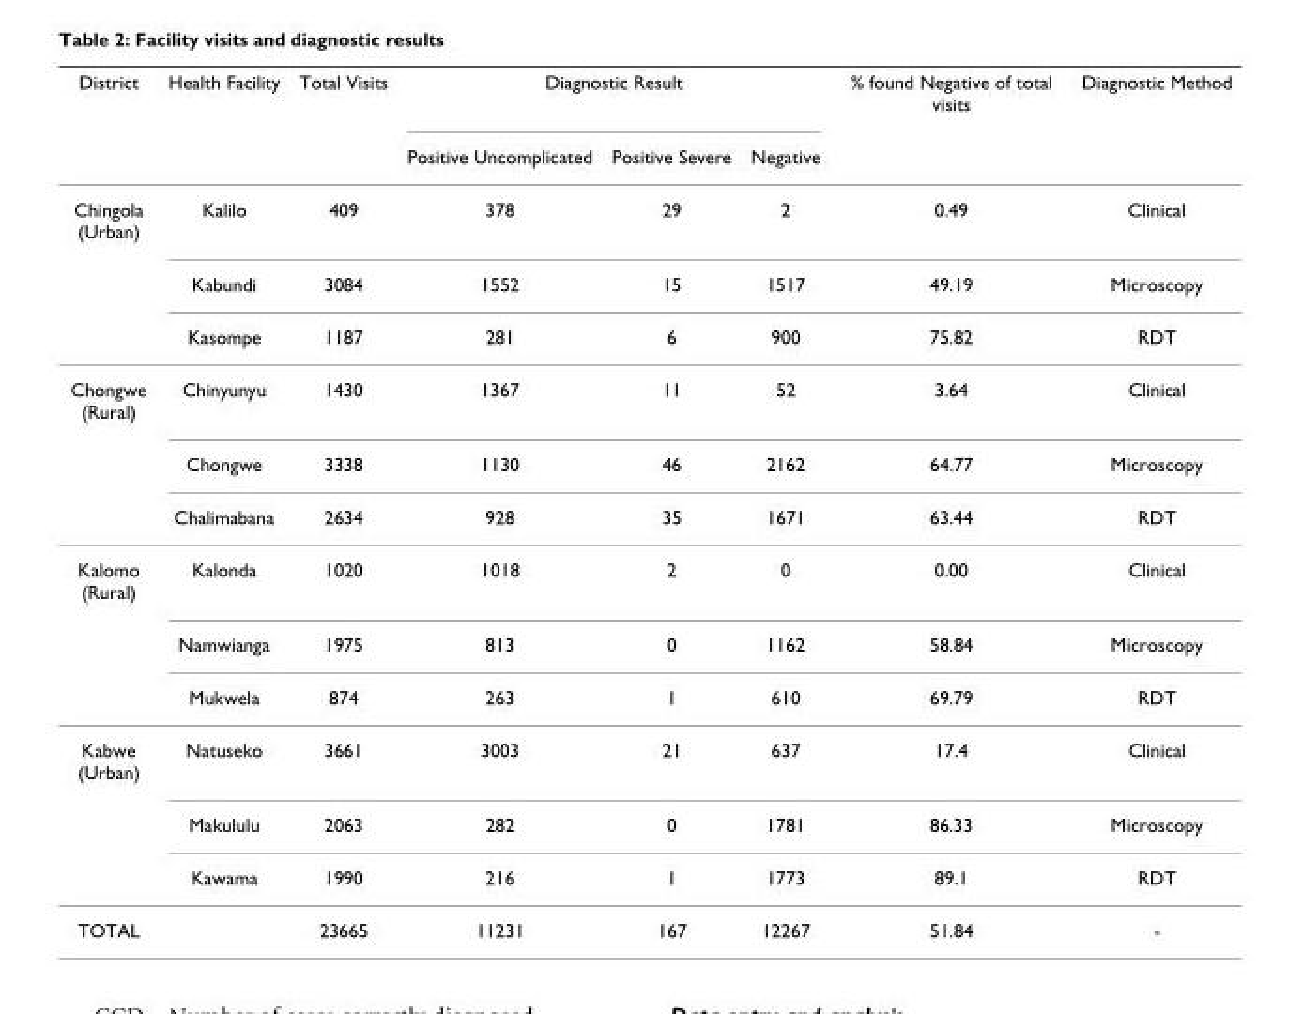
<table><thead><tr><td rowspan="2">District</td><td rowspan="2">Health Facility</td><td rowspan="2">Total Visits</td><td colspan="3">Diagnostic Result</td><td rowspan="2">% found Negative of total visits</td><td rowspan="2">Diagnostic Method</td></tr><tr><td>Positive Uncomplicated</td><td>Positive Severe</td><td>Negative</td></tr></thead><tbody><tr><td rowspan="3">Chingola (Urban)</td><td>Kalilo</td><td>409</td><td>378</td><td>29</td><td>2</td><td>0.49</td><td>Clinical</td></tr><tr><td>Kabundi</td><td>3084</td><td>1552</td><td>15</td><td>1517</td><td>49.19</td><td>Microscopy</td></tr><tr><td>Kasompe</td><td>1187</td><td>281</td><td>6</td><td>900</td><td>75.82</td><td>RDT</td></tr><tr><td rowspan="3">Chongwe (Rural)</td><td>Chinyunyu</td><td>1430</td><td>1367</td><td>11</td><td>52</td><td>3.64</td><td>Clinical</td></tr><tr><td>Chongwe</td><td>3338</td><td>1130</td><td>46</td><td>2162</td><td>64.77</td><td>Microscopy</td></tr><tr><td>Chalimabana</td><td>2634</td><td>928</td><td>35</td><td>1671</td><td>63.44</td><td>RDT</td></tr><tr><td rowspan="3">Kalomo (Rural)</td><td>Kalonda</td><td>1020</td><td>1018</td><td>2</td><td>0</td><td>0.00</td><td>Clinical</td></tr><tr><td>Namwianga</td><td>1975</td><td>813</td><td>0</td><td>1162</td><td>58.84</td><td>Microscopy</td></tr><tr><td>Mukwela</td><td>874</td><td>263</td><td>1</td><td>610</td><td>69.79</td><td>RDT</td></tr><tr><td rowspan="3">Kabwe (Urban)</td><td>Natuseko</td><td>3661</td><td>3003</td><td>21</td><td>637</td><td>17.4</td><td>Clinical</td></tr><tr><td>Makululu</td><td>2063</td><td>282</td><td>0</td><td>1781</td><td>86.33</td><td>Microscopy</td></tr><tr><td>Kawama</td><td>1990</td><td>216</td><td>1</td><td>1773</td><td>89.1</td><td>RDT</td></tr><tr><td>TOTAL</td><td></td><td>23665</td><td>11231</td><td>167</td><td>12267</td><td>51.84</td><td>-</td></tr></tbody></table>